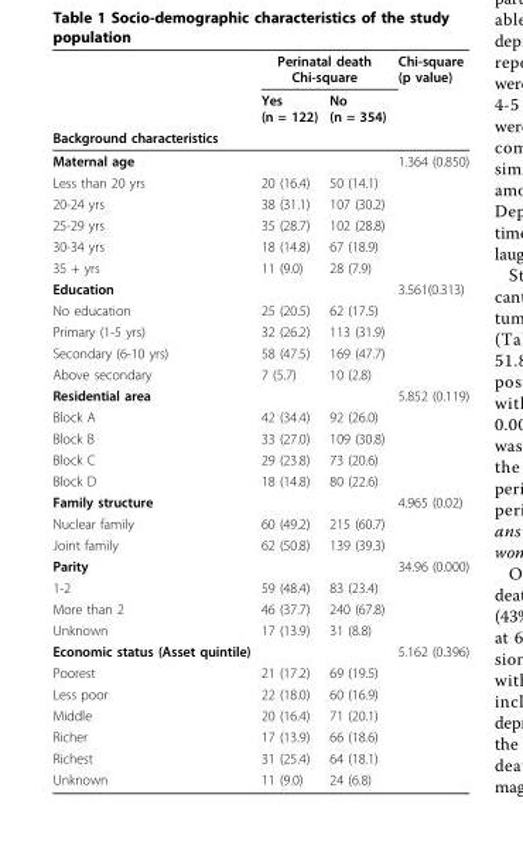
<table><thead><tr><td rowspan="3">Background characteristics</td><td colspan="2">Perinatal death Chi-square</td><td rowspan="3">Chi-square (p value)</td></tr><tr><td rowspan="2">Yes (n = 122)</td><td rowspan="2">No (n = 354)</td></tr><tr></tr></thead><tbody><tr><td>Maternal age</td><td></td><td></td><td>1.364 (0.850)</td></tr><tr><td>Less than 20 yrs</td><td>20 (16.4)</td><td>50 (14.1)</td><td></td></tr><tr><td>20-24 yrs</td><td>38 (31.1)</td><td>107 (30.2)</td><td></td></tr><tr><td>25-29 yrs</td><td>35 (28.7)</td><td>102 (28.8)</td><td></td></tr><tr><td>30-34 yrs</td><td>18 (14.8)</td><td>67 (18.9)</td><td></td></tr><tr><td>35 + yrs</td><td>11 (9.0)</td><td>28 (7.9)</td><td></td></tr><tr><td>Education</td><td></td><td></td><td>3.561(0.313)</td></tr><tr><td>No education</td><td>25 (20.5)</td><td>62 (17.5)</td><td></td></tr><tr><td>Primary (1-5 yrs)</td><td>32 (26.2)</td><td>113 (31.9)</td><td></td></tr><tr><td>Secondary (6-10 yrs)</td><td>58 (47.5)</td><td>169 (47.7)</td><td></td></tr><tr><td>Above secondary</td><td>7 (5.7)</td><td>10 (2.8)</td><td></td></tr><tr><td>Residential area</td><td></td><td></td><td>5.852 (0.119)</td></tr><tr><td>Block A</td><td>42 (34.4)</td><td>92 (26.0)</td><td></td></tr><tr><td>Block B</td><td>33 (27.0)</td><td>109 (30.8)</td><td></td></tr><tr><td>Block C</td><td>29 (23.8)</td><td>73 (20.6)</td><td></td></tr><tr><td>Block D</td><td>18 (14.8)</td><td>80 (22.6)</td><td></td></tr><tr><td>Family structure</td><td></td><td></td><td>4.965 (0.02)</td></tr><tr><td>Nuclear family</td><td>60 (49.2)</td><td>215 (60.7)</td><td></td></tr><tr><td>Joint family</td><td>62 (50.8)</td><td>139 (39.3)</td><td></td></tr><tr><td>Parity</td><td></td><td></td><td>34.96 (0.000)</td></tr><tr><td>1-2</td><td>59 (48.4)</td><td>83 (23.4)</td><td></td></tr><tr><td>More than 2</td><td>46 (37.7)</td><td>240 (67.8)</td><td></td></tr><tr><td>Unknown</td><td>17 (13.9)</td><td>31 (8.8)</td><td></td></tr><tr><td>Economic status (Asset quintile)</td><td></td><td></td><td>5.162 (0.396)</td></tr><tr><td>Poorest</td><td>21 (17.2)</td><td>69 (19.5)</td><td></td></tr><tr><td>Less poor</td><td>22 (18.0)</td><td>60 (16.9)</td><td></td></tr><tr><td>Middle</td><td>20 (16.4)</td><td>71 (20.1)</td><td></td></tr><tr><td>Richer</td><td>17 (13.9)</td><td>66 (18.6)</td><td></td></tr><tr><td>Richest</td><td>31 (25.4)</td><td>64 (18.1)</td><td></td></tr><tr><td>Unknown</td><td>11 (9.0)</td><td>24 (6.8)</td><td></td></tr></tbody></table>